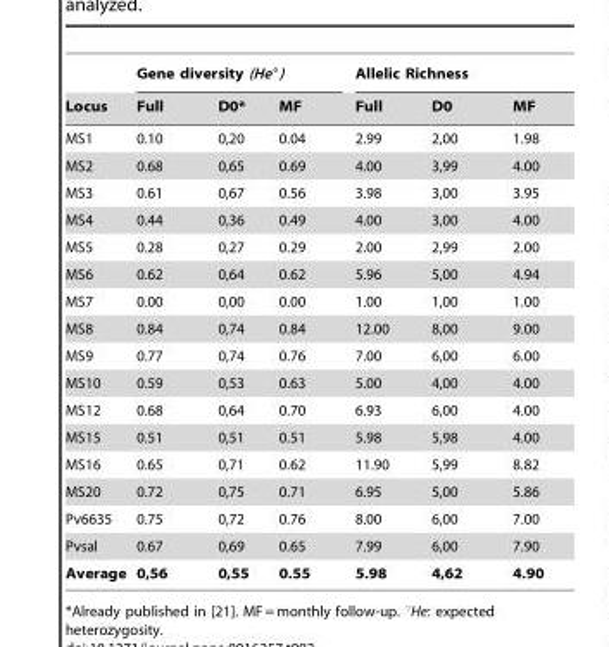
<table><thead><tr><td rowspan="2">Locus</td><td colspan="3">Gene diversity (He°)</td><td colspan="3">Allelic Richness</td></tr><tr><td>Full</td><td>D0*</td><td>MF</td><td>Full</td><td>D0</td><td>MF</td></tr></thead><tbody><tr><td>MS1</td><td>0.10</td><td>0,20</td><td>0.04</td><td>2.99</td><td>2,00</td><td>1.98</td></tr><tr><td>MS2</td><td>0.68</td><td>0,65</td><td>0.69</td><td>4.00</td><td>3,99</td><td>4.00</td></tr><tr><td>MS3</td><td>0.61</td><td>0,67</td><td>0.56</td><td>3.98</td><td>3,00</td><td>3.95</td></tr><tr><td>MS4</td><td>0.44</td><td>0,36</td><td>0.49</td><td>4.00</td><td>3,00</td><td>4.00</td></tr><tr><td>MS5</td><td>0.28</td><td>0,27</td><td>0.29</td><td>2.00</td><td>2,99</td><td>2.00</td></tr><tr><td>MS6</td><td>0.62</td><td>0,64</td><td>0.62</td><td>5.96</td><td>5,00</td><td>4.94</td></tr><tr><td>MS7</td><td>0.00</td><td>0,00</td><td>0.00</td><td>1.00</td><td>1,00</td><td>1.00</td></tr><tr><td>MS8</td><td>0.84</td><td>0,74</td><td>0.84</td><td>12.00</td><td>8,00</td><td>9.00</td></tr><tr><td>MS9</td><td>0.77</td><td>0,74</td><td>0.76</td><td>7.00</td><td>6,00</td><td>6.00</td></tr><tr><td>MS10</td><td>0.59</td><td>0,53</td><td>0.63</td><td>5.00</td><td>4,00</td><td>4.00</td></tr><tr><td>MS12</td><td>0.68</td><td>0,64</td><td>0.70</td><td>6.93</td><td>6,00</td><td>4.00</td></tr><tr><td>MS15</td><td>0.51</td><td>0,51</td><td>0.51</td><td>5.98</td><td>5,98</td><td>4.00</td></tr><tr><td>MS16</td><td>0.65</td><td>0,71</td><td>0.62</td><td>11.90</td><td>5,99</td><td>8.82</td></tr><tr><td>MS20</td><td>0.72</td><td>0,75</td><td>0.71</td><td>6.95</td><td>5,00</td><td>5.86</td></tr><tr><td>Pv6635</td><td>0.75</td><td>0,72</td><td>0.76</td><td>8.00</td><td>6,00</td><td>7.00</td></tr><tr><td>Pvsal</td><td>0.67</td><td>0,69</td><td>0.65</td><td>7.99</td><td>6,00</td><td>7.90</td></tr><tr><td>Average</td><td>0,56</td><td>0,55</td><td>0.55</td><td>5.98</td><td>4,62</td><td>4.90</td></tr></tbody></table>